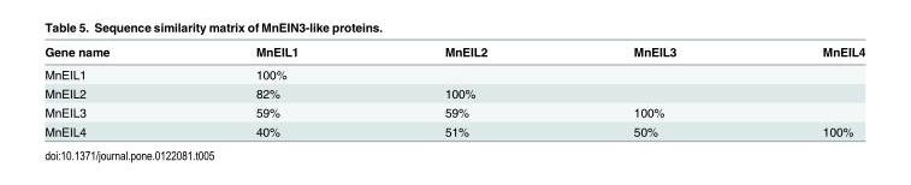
<table><thead><tr><td>Gene name</td><td>MnEIL1</td><td>MnEIL2</td><td>MnEIL3</td><td>MnEIL4</td></tr></thead><tbody><tr><td>MnEIL1</td><td>100%</td><td></td><td></td><td></td></tr><tr><td>MnEIL2</td><td>82%</td><td>100%</td><td></td><td></td></tr><tr><td>MnEIL3</td><td>59%</td><td>59%</td><td>100%</td><td></td></tr><tr><td>MnEIL4</td><td>40%</td><td>51%</td><td>50%</td><td>100%</td></tr></tbody></table>